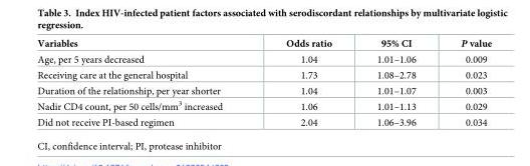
<table><thead><tr><td>Variables</td><td>Odds ratio</td><td>95% CI</td><td>P value</td></tr></thead><tbody><tr><td>Age, per 5 years decreased</td><td>1.04</td><td>1.01–1.06</td><td>0.009</td></tr><tr><td>Receiving care at the general hospital</td><td>1.73</td><td>1.08–2.78</td><td>0.023</td></tr><tr><td>Duration of the relationship, per year shorter</td><td>1.04</td><td>1.01–1.07</td><td>0.003</td></tr><tr><td>Nadir CD4 count, per 50 cells/mm<sup>3</sup> increased</td><td>1.06</td><td>1.01–1.13</td><td>0.029</td></tr><tr><td>Did not receive PI-based regimen</td><td>2.04</td><td>1.06–3.96</td><td>0.034</td></tr></tbody></table>